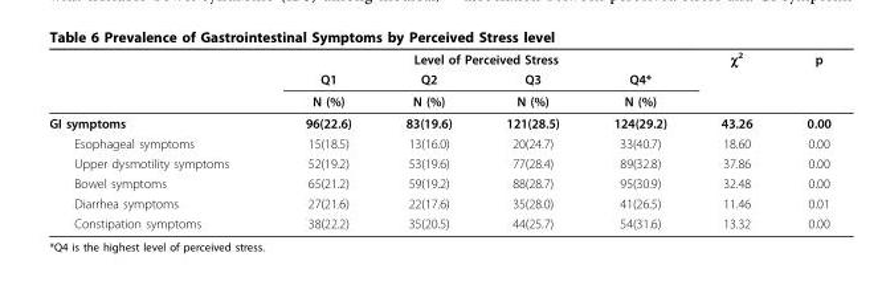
<table><thead><tr><td rowspan="2"></td><td colspan="4">Level of Perceived Stress</td><td rowspan="2">χ<sup>2</sup></td><td rowspan="2">p</td></tr><tr><td>Q1</td><td>Q2</td><td>Q3</td><td>Q4*</td></tr></thead><tbody><tr><td></td><td>N (%)</td><td>N (%)</td><td>N (%)</td><td>N (%)</td><td></td><td></td></tr><tr><td>GI symptoms</td><td>96(22.6)</td><td>83(19.6)</td><td>121(28.5)</td><td>124(29.2)</td><td>43.26</td><td>0.00</td></tr><tr><td>Esophageal symptoms</td><td>15(18.5)</td><td>13(16.0)</td><td>20(24.7)</td><td>33(40.7)</td><td>18.60</td><td>0.00</td></tr><tr><td>Upper dysmotility symptoms</td><td>52(19.2)</td><td>53(19.6)</td><td>77(28.4)</td><td>89(32.8)</td><td>37.86</td><td>0.00</td></tr><tr><td>Bowel symptoms</td><td>65(21.2)</td><td>59(19.2)</td><td>88(28.7)</td><td>95(30.9)</td><td>32.48</td><td>0.00</td></tr><tr><td>Diarrhea symptoms</td><td>27(21.6)</td><td>22(17.6)</td><td>35(28.0)</td><td>41(26.5)</td><td>11.46</td><td>0.01</td></tr><tr><td>Constipation symptoms</td><td>38(22.2)</td><td>35(20.5)</td><td>44(25.7)</td><td>54(31.6)</td><td>13.32</td><td>0.00</td></tr></tbody></table>